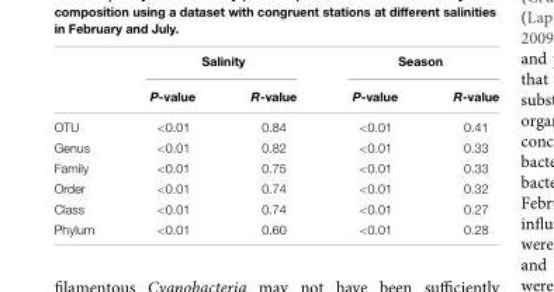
<table><thead><tr><td rowspan="2"></td><td colspan="2">Salinity</td><td colspan="2">Season</td></tr><tr><td>P-value</td><td>R-value</td><td>P-value</td><td>R-value</td></tr></thead><tbody><tr><td>OTU</td><td>&lt;0.01</td><td>0.84</td><td>&lt;0.01</td><td>0.41</td></tr><tr><td>Genus</td><td>&lt;0.01</td><td>0.82</td><td>&lt;0.01</td><td>0.33</td></tr><tr><td>Family</td><td>&lt;0.01</td><td>0.75</td><td>&lt;0.01</td><td>0.33</td></tr><tr><td>Order</td><td>&lt;0.01</td><td>0.74</td><td>&lt;0.01</td><td>0.32</td></tr><tr><td>Class</td><td>&lt;0.01</td><td>0.74</td><td>&lt;0.01</td><td>0.27</td></tr><tr><td>Phylum</td><td>&lt;0.01</td><td>0.60</td><td>&lt;0.01</td><td>0.28</td></tr></tbody></table>